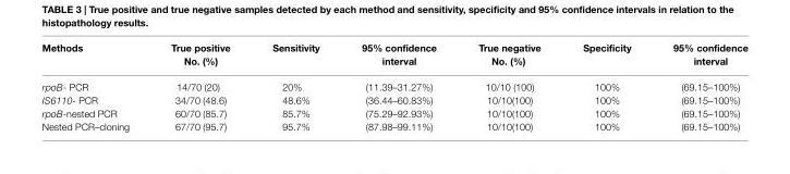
<table><thead><tr><td>Methods</td><td>True positive No. (%)</td><td>Sensitivity</td><td>95% confidence interval</td><td>True negative No. (%)</td><td>Specificity</td><td>95% confidence interval</td></tr></thead><tbody><tr><td>rpoB- PCR</td><td>14/70 (20)</td><td>20%</td><td>(11.39–31.27%)</td><td>10/10 (100)</td><td>100%</td><td>(69.15–100%)</td></tr><tr><td>IS6110- PCR</td><td>34/70 (48.6)</td><td>48.6%</td><td>(36.44–60.83%)</td><td>10/10(100)</td><td>100%</td><td>(69.15–100%)</td></tr><tr><td>rpoB-nested PCR</td><td>60/70 (85.7)</td><td>85.7%</td><td>(75.29–92.93%)</td><td>10/10(100)</td><td>100%</td><td>(69.15–100%)</td></tr><tr><td>Nested PCR–cloning</td><td>67/70 (95.7)</td><td>95.7%</td><td>(87.98–99.11%)</td><td>10/10(100)</td><td>100%</td><td>(69.15–100%)</td></tr></tbody></table>